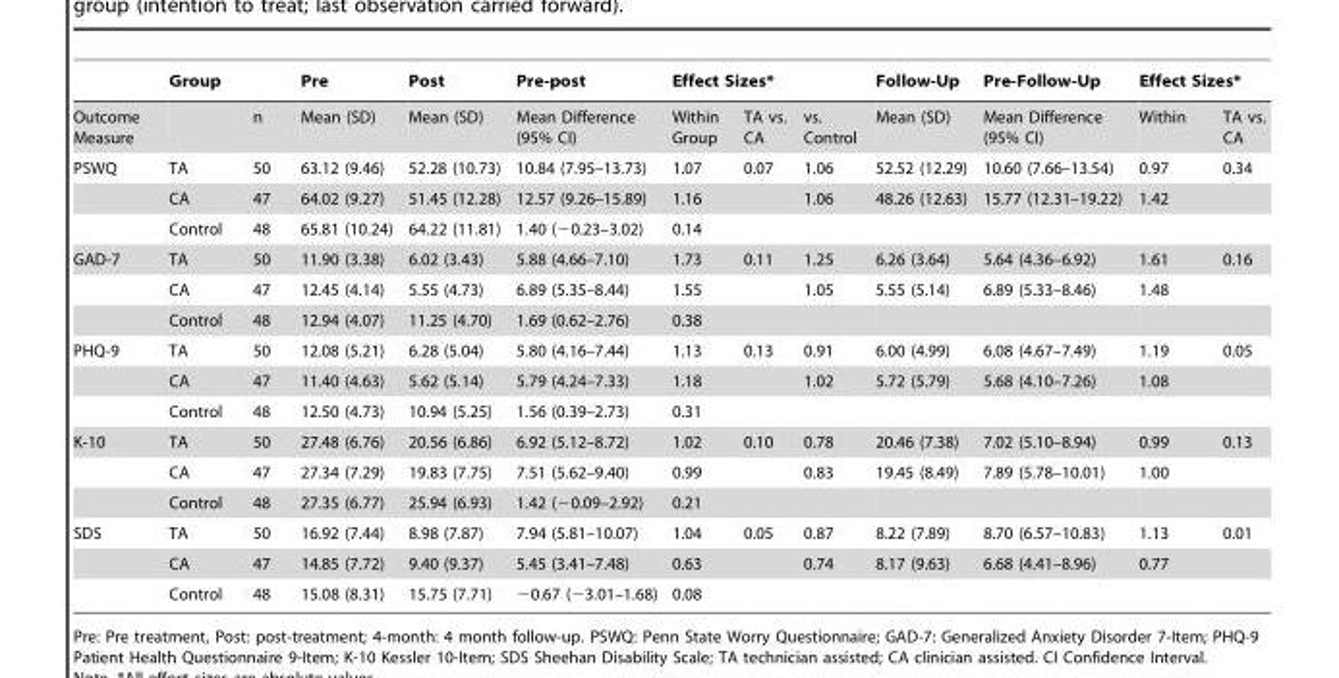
<table><thead><tr><td rowspan="2">Outcome Measure</td><td rowspan="2">Group</td><td rowspan="2">n</td><td rowspan="2">Pre Mean (SD)</td><td rowspan="2">Post Mean (SD)</td><td rowspan="2">Pre-post Mean Difference (95% CI)</td><td colspan="3">Effect Sizes*</td><td rowspan="2">Follow-Up Mean (SD)</td><td rowspan="2">Pre-Follow-Up Mean Difference (95% CI)</td><td colspan="2">Effect Sizes*</td></tr><tr><td>Within Group</td><td>TA vs. CA</td><td>vs. Control</td><td>Within</td><td>TA vs. CA</td></tr></thead><tbody><tr><td rowspan="3">PSWQ</td><td>TA</td><td>50</td><td>63.12 (9.46)</td><td>52.28 (10.73)</td><td>10.84 (7.95–13.73)</td><td>1.07</td><td>0.07</td><td>1.06</td><td>52.52 (12.29)</td><td>10.60 (7.66–13.54)</td><td>0.97</td><td>0.34</td></tr><tr><td>CA</td><td>47</td><td>64.02 (9.27)</td><td>51.45 (12.28)</td><td>12.57 (9.26–15.89)</td><td>1.16</td><td></td><td>1.06</td><td>48.26 (12.63)</td><td>15.77 (12.31–19.22)</td><td>1.42</td><td></td></tr><tr><td>Control</td><td>48</td><td>65.81 (10.24)</td><td>64.22 (11.81)</td><td>1.40 (−0.23–3.02)</td><td>0.14</td><td></td><td></td><td></td><td></td><td></td><td></td></tr><tr><td rowspan="3">GAD-7</td><td>TA</td><td>50</td><td>11.90 (3.38)</td><td>6.02 (3.43)</td><td>5.88 (4.66–7.10)</td><td>1.73</td><td>0.11</td><td>1.25</td><td>6.26 (3.64)</td><td>5.64 (4.36–6.92)</td><td>1.61</td><td>0.16</td></tr><tr><td>CA</td><td>47</td><td>12.45 (4.14)</td><td>5.55 (4.73)</td><td>6.89 (5.35–8.44)</td><td>1.55</td><td></td><td>1.05</td><td>5.55 (5.14)</td><td>6.89 (5.33–8.46)</td><td>1.48</td><td></td></tr><tr><td>Control</td><td>48</td><td>12.94 (4.07)</td><td>11.25 (4.70)</td><td>1.69 (0.62–2.76)</td><td>0.38</td><td></td><td></td><td></td><td></td><td></td><td></td></tr><tr><td rowspan="3">PHQ-9</td><td>TA</td><td>50</td><td>12.08 (5.21)</td><td>6.28 (5.04)</td><td>5.80 (4.16–7.44)</td><td>1.13</td><td>0.13</td><td>0.91</td><td>6.00 (4.99)</td><td>6.08 (4.67–7.49)</td><td>1.19</td><td>0.05</td></tr><tr><td>CA</td><td>47</td><td>11.40 (4.63)</td><td>5.62 (5.14)</td><td>5.79 (4.24–7.33)</td><td>1.18</td><td></td><td>1.02</td><td>5.72 (5.79)</td><td>5.68 (4.10–7.26)</td><td>1.08</td><td></td></tr><tr><td>Control</td><td>48</td><td>12.50 (4.73)</td><td>10.94 (5.25)</td><td>1.56 (0.39–2.73)</td><td>0.31</td><td></td><td></td><td></td><td></td><td></td><td></td></tr><tr><td rowspan="3">K-10</td><td>TA</td><td>50</td><td>27.48 (6.76)</td><td>20.56 (6.86)</td><td>6.92 (5.12–8.72)</td><td>1.02</td><td>0.10</td><td>0.78</td><td>20.46 (7.38)</td><td>7.02 (5.10–8.94)</td><td>0.99</td><td>0.13</td></tr><tr><td>CA</td><td>47</td><td>27.34 (7.29)</td><td>19.83 (7.75)</td><td>7.51 (5.62–9.40)</td><td>0.99</td><td></td><td>0.83</td><td>19.45 (8.49)</td><td>7.89 (5.78–10.01)</td><td>1.00</td><td></td></tr><tr><td>Control</td><td>48</td><td>27.35 (6.77)</td><td>25.94 (6.93)</td><td>1.42 (−0.09–2.92)</td><td>0.21</td><td></td><td></td><td></td><td></td><td></td><td></td></tr><tr><td rowspan="3">SDS</td><td>TA</td><td>50</td><td>16.92 (7.44)</td><td>8.98 (7.87)</td><td>7.94 (5.81–10.07)</td><td>1.04</td><td>0.05</td><td>0.87</td><td>8.22 (7.89)</td><td>8.70 (6.57–10.83)</td><td>1.13</td><td>0.01</td></tr><tr><td>CA</td><td>47</td><td>14.85 (7.72)</td><td>9.40 (9.37)</td><td>5.45 (3.41–7.48)</td><td>0.63</td><td></td><td>0.74</td><td>8.17 (9.63)</td><td>6.68 (4.41–8.96)</td><td>0.77</td><td></td></tr><tr><td>Control</td><td>48</td><td>15.08 (8.31)</td><td>15.75 (7.71)</td><td>−0.67 (−3.01–1.68)</td><td>0.08</td><td></td><td></td><td></td><td></td><td></td><td></td></tr></tbody></table>